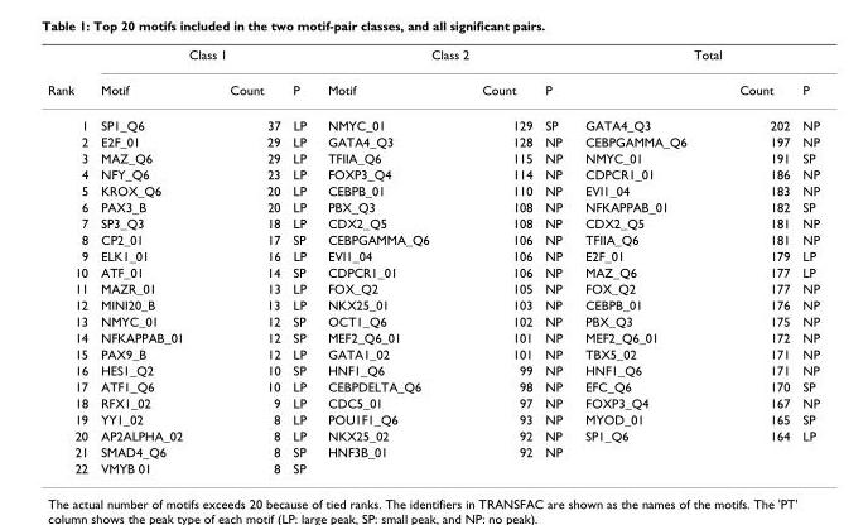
<table><thead><tr><td rowspan="2">Rank</td><td colspan="3">Class 1</td><td colspan="3">Class 2</td><td colspan="3">Total</td></tr><tr><td>Motif</td><td>Count</td><td>P</td><td>Motif</td><td>Count</td><td>P</td><td></td><td>Count</td><td>P</td></tr></thead><tbody><tr><td>1</td><td>SP1_Q6</td><td>37</td><td>LP</td><td>NMYC_01</td><td>129</td><td>SP</td><td>GATA4_Q3</td><td>202</td><td>NP</td></tr><tr><td>2</td><td>E2F_01</td><td>29</td><td>LP</td><td>GATA4_Q3</td><td>128</td><td>NP</td><td>CEBPGAMMA_Q6</td><td>197</td><td>NP</td></tr><tr><td>3</td><td>MAZ_Q6</td><td>29</td><td>LP</td><td>TFIIA_Q6</td><td>115</td><td>NP</td><td>NMYC_01</td><td>191</td><td>SP</td></tr><tr><td>4</td><td>NFY_Q6</td><td>23</td><td>LP</td><td>FOXP3_Q4</td><td>114</td><td>NP</td><td>CDPCR1_01</td><td>186</td><td>NP</td></tr><tr><td>5</td><td>KROX_Q6</td><td>20</td><td>LP</td><td>CEBPB_01</td><td>110</td><td>NP</td><td>EVI1_04</td><td>183</td><td>NP</td></tr><tr><td>6</td><td>PAX3_B</td><td>20</td><td>LP</td><td>PBX_Q3</td><td>108</td><td>NP</td><td>NFKAPPAB_01</td><td>182</td><td>SP</td></tr><tr><td>7</td><td>SP3_Q3</td><td>18</td><td>LP</td><td>CDX2_Q5</td><td>108</td><td>NP</td><td>CDX2_Q5</td><td>181</td><td>NP</td></tr><tr><td>8</td><td>CP2_01</td><td>17</td><td>SP</td><td>CEBPGAMMA_Q6</td><td>106</td><td>NP</td><td>TFIIA_Q6</td><td>181</td><td>NP</td></tr><tr><td>9</td><td>ELK1_01</td><td>16</td><td>LP</td><td>EVI1_04</td><td>106</td><td>NP</td><td>E2F_01</td><td>179</td><td>LP</td></tr><tr><td>10</td><td>ATF_01</td><td>14</td><td>SP</td><td>CDPCR1_01</td><td>106</td><td>NP</td><td>MAZ_Q6</td><td>177</td><td>LP</td></tr><tr><td>11</td><td>MAZR_01</td><td>13</td><td>LP</td><td>FOX_Q2</td><td>105</td><td>NP</td><td>FOX_Q2</td><td>177</td><td>NP</td></tr><tr><td>12</td><td>MINI20_B</td><td>13</td><td>LP</td><td>NKX25_01</td><td>103</td><td>NP</td><td>CEBPB_01</td><td>176</td><td>NP</td></tr><tr><td>13</td><td>NMYC_01</td><td>12</td><td>SP</td><td>OCT1_Q6</td><td>102</td><td>NP</td><td>PBX_Q3</td><td>175</td><td>NP</td></tr><tr><td>14</td><td>NFKAPPAB_01</td><td>12</td><td>SP</td><td>MEF2_Q6_01</td><td>101</td><td>NP</td><td>MEF2_Q6_01</td><td>172</td><td>NP</td></tr><tr><td>15</td><td>PAX9_B</td><td>12</td><td>LP</td><td>GATA1_02</td><td>101</td><td>NP</td><td>TBX5_02</td><td>171</td><td>NP</td></tr><tr><td>16</td><td>HES1_Q2</td><td>10</td><td>SP</td><td>HNF1_Q6</td><td>99</td><td>NP</td><td>HNF1_Q6</td><td>171</td><td>NP</td></tr><tr><td>17</td><td>ATF1_Q6</td><td>10</td><td>LP</td><td>CEBPDELTA_Q6</td><td>98</td><td>NP</td><td>EFC_Q6</td><td>170</td><td>SP</td></tr><tr><td>18</td><td>RFX1_02</td><td>9</td><td>LP</td><td>CDC5_01</td><td>97</td><td>NP</td><td>FOXP3_Q4</td><td>167</td><td>NP</td></tr><tr><td>19</td><td>YY1_02</td><td>8</td><td>LP</td><td>POU1F1_Q6</td><td>93</td><td>NP</td><td>MYOD_01</td><td>165</td><td>SP</td></tr><tr><td>20</td><td>AP2ALPHA_02</td><td>8</td><td>LP</td><td>NKX25_02</td><td>92</td><td>NP</td><td>SP1_Q6</td><td>164</td><td>LP</td></tr><tr><td>21</td><td>SMAD4_Q6</td><td>8</td><td>SP</td><td>HNF3B_01</td><td>92</td><td>NP</td><td></td><td></td><td></td></tr><tr><td>22</td><td>VMYB 01</td><td>8</td><td>SP</td><td></td><td></td><td></td><td></td><td></td><td></td></tr></tbody></table>